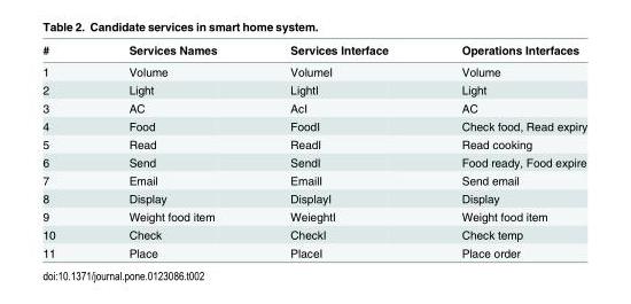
<table><thead><tr><td>#</td><td>Services Names</td><td>Services Interface</td><td>Operations Interfaces</td></tr></thead><tbody><tr><td>1</td><td>Volume</td><td>VolumeI</td><td>Volume</td></tr><tr><td>2</td><td>Light</td><td>LightI</td><td>Light</td></tr><tr><td>3</td><td>AC</td><td>AcI</td><td>AC</td></tr><tr><td>4</td><td>Food</td><td>FoodI</td><td>Check food, Read expiry</td></tr><tr><td>5</td><td>Read</td><td>ReadI</td><td>Read cooking</td></tr><tr><td>6</td><td>Send</td><td>SendI</td><td>Food ready, Food expire</td></tr><tr><td>7</td><td>Email</td><td>EmailI</td><td>Send email</td></tr><tr><td>8</td><td>Display</td><td>DisplayI</td><td>Display</td></tr><tr><td>9</td><td>Weight food item</td><td>WeieghtI</td><td>Weight food item</td></tr><tr><td>10</td><td>Check</td><td>CheckI</td><td>Check temp</td></tr><tr><td>11</td><td>Place</td><td>PlaceI</td><td>Place order</td></tr></tbody></table>